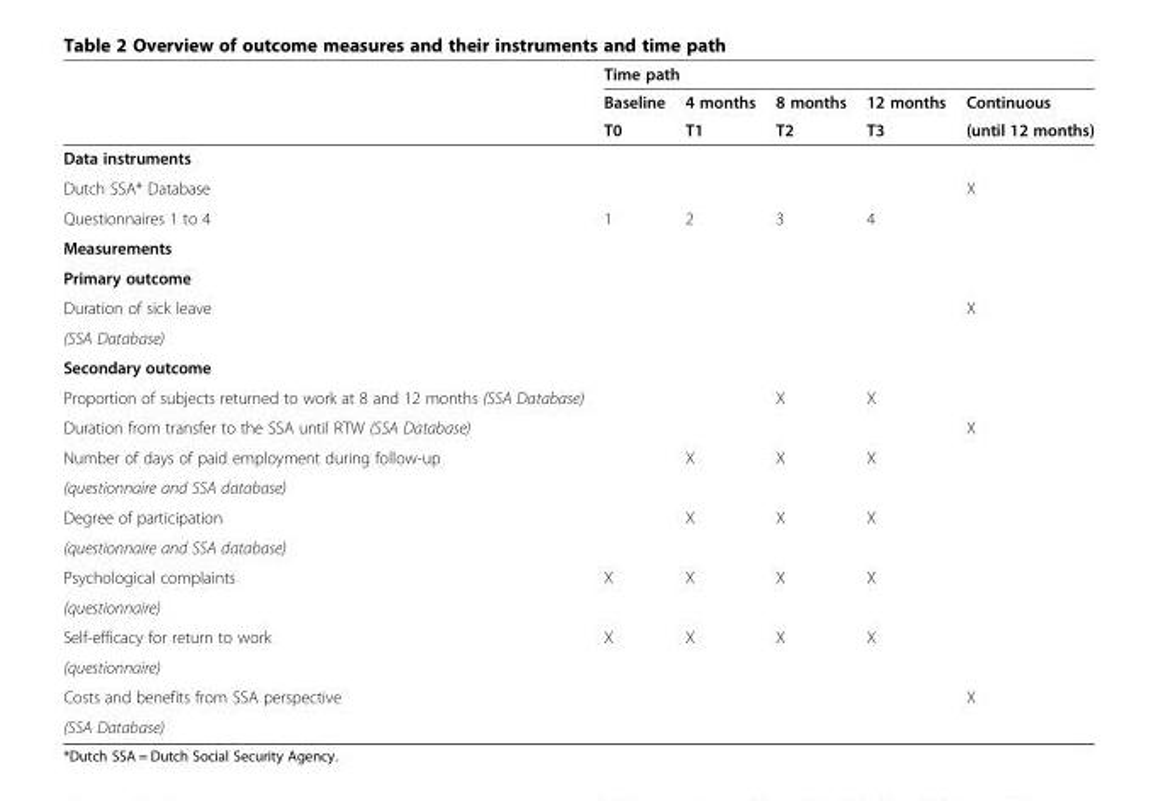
<table><thead><tr><td rowspan="3"></td><td colspan="5">Time path</td></tr><tr><td rowspan="2">Baseline T0</td><td rowspan="2">4 months T1</td><td rowspan="2">8 months T2</td><td rowspan="2">12 months T3</td><td rowspan="2">Continuous (until 12 months)</td></tr><tr></tr></thead><tbody><tr><td colspan="6">Data instruments</td></tr><tr><td>Dutch SSA* Database</td><td></td><td></td><td></td><td></td><td>X</td></tr><tr><td>Questionnaires 1 to 4</td><td>1</td><td>2</td><td>3</td><td>4</td><td></td></tr><tr><td colspan="6">Measurements</td></tr><tr><td colspan="6">Primary outcome</td></tr><tr><td>Duration of sick leave</td><td></td><td></td><td></td><td></td><td>X</td></tr><tr><td colspan="6">(SSA Database)</td></tr><tr><td colspan="6">Secondary outcome</td></tr><tr><td>Proportion of subjects returned to work at 8 and 12 months (SSA Database)</td><td></td><td></td><td>X</td><td>X</td><td></td></tr><tr><td>Duration from transfer to the SSA until RTW (SSA Database)</td><td></td><td></td><td></td><td></td><td>X</td></tr><tr><td>Number of days of paid employment during follow-up</td><td rowspan="2"></td><td rowspan="2">X</td><td rowspan="2">X</td><td rowspan="2">X</td><td rowspan="2"></td></tr><tr><td>(questionnaire and SSA database)</td></tr><tr><td>Degree of participation</td><td rowspan="2"></td><td rowspan="2">X</td><td rowspan="2">X</td><td rowspan="2">X</td><td rowspan="2"></td></tr><tr><td>(questionnaire and SSA database)</td></tr><tr><td>Psychological complaints</td><td rowspan="2">X</td><td rowspan="2">X</td><td rowspan="2">X</td><td rowspan="2">X</td><td rowspan="2"></td></tr><tr><td>(questionnaire)</td></tr><tr><td>Self-efficacy for return to work</td><td rowspan="2">X</td><td rowspan="2">X</td><td rowspan="2">X</td><td rowspan="2">X</td><td rowspan="2"></td></tr><tr><td>(questionnaire)</td></tr><tr><td>Costs and benefits from SSA perspective</td><td rowspan="2"></td><td rowspan="2"></td><td rowspan="2"></td><td rowspan="2"></td><td rowspan="2">X</td></tr><tr><td>(SSA Database)</td></tr></tbody></table>